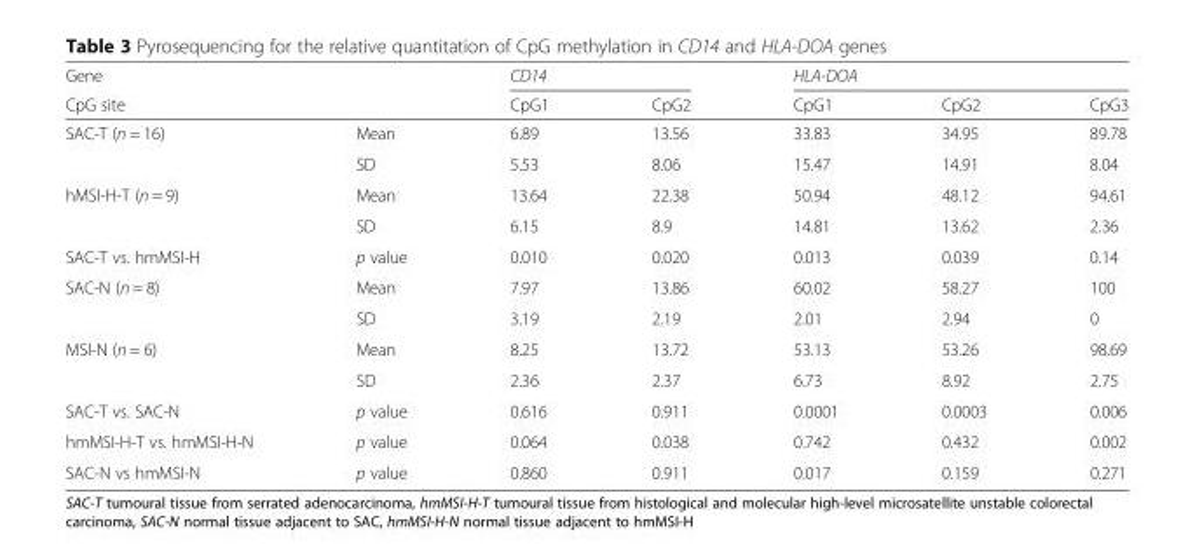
<table><thead><tr><td rowspan="2">Gene CpG site</td><td rowspan="2"></td><td colspan="2">CD14</td><td colspan="3">HLA-DOA</td></tr><tr><td>CpG1</td><td>CpG2</td><td>CpG1</td><td>CpG2</td><td>CpG3</td></tr></thead><tbody><tr><td rowspan="2">SAC-T (n = 16)</td><td>Mean</td><td>6.89</td><td>13.56</td><td>33.83</td><td>34.95</td><td>89.78</td></tr><tr><td>SD</td><td>5.53</td><td>8.06</td><td>15.47</td><td>14.91</td><td>8.04</td></tr><tr><td rowspan="2">hMSI-H-T (n = 9)</td><td>Mean</td><td>13.64</td><td>22.38</td><td>50.94</td><td>48.12</td><td>94.61</td></tr><tr><td>SD</td><td>6.15</td><td>8.9</td><td>14.81</td><td>13.62</td><td>2.36</td></tr><tr><td>SAC-T vs. hmMSI-H</td><td>p value</td><td>0.010</td><td>0.020</td><td>0.013</td><td>0.039</td><td>0.14</td></tr><tr><td rowspan="2">SAC-N (n = 8)</td><td>Mean</td><td>7.97</td><td>13.86</td><td>60.02</td><td>58.27</td><td>100</td></tr><tr><td>SD</td><td>3.19</td><td>2.19</td><td>2.01</td><td>2.94</td><td>0</td></tr><tr><td rowspan="2">MSI-N (n = 6)</td><td>Mean</td><td>8.25</td><td>13.72</td><td>53.13</td><td>53.26</td><td>98.69</td></tr><tr><td>SD</td><td>2.36</td><td>2.37</td><td>6.73</td><td>8.92</td><td>2.75</td></tr><tr><td>SAC-T vs. SAC-N</td><td>p value</td><td>0.616</td><td>0.911</td><td>0.0001</td><td>0.0003</td><td>0.006</td></tr><tr><td>hmMSI-H-T vs. hmMSI-H-N</td><td>p value</td><td>0.064</td><td>0.038</td><td>0.742</td><td>0.432</td><td>0.002</td></tr><tr><td>SAC-N vs hmMSI-N</td><td>p value</td><td>0.860</td><td>0.911</td><td>0.017</td><td>0.159</td><td>0.271</td></tr></tbody></table>